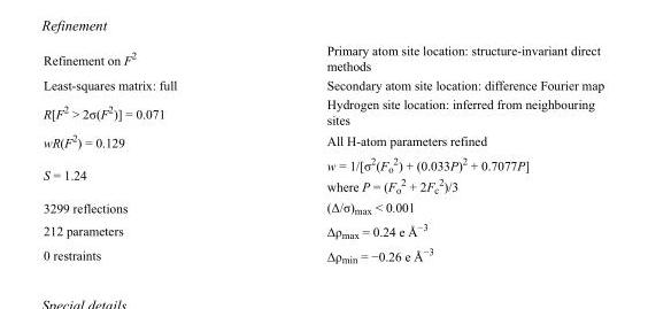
<table><tbody><tr><td>Refinement on F<sup>2</sup></td><td>Primary atom site location: structure-invariant direct methods</td></tr><tr><td>Least-squares matrix: full</td><td>Secondary atom site location: difference Fourier map</td></tr><tr><td>R[F<sup>2</sup> &gt; 2σ(F<sup>2</sup>)] = 0.071</td><td>Hydrogen site location: inferred from neighbouring sites</td></tr><tr><td>wR(F<sup>2</sup>) = 0.129</td><td>All H-atom parameters refined</td></tr><tr><td>S = 1.24</td><td>w = 1/[σ<sup>2</sup>(F<sub>o</sub> <sup>2</sup>) + (0.033P)<sup>2</sup> + 0.7077P] where P = (F<sub>o</sub> <sup>2</sup> + 2F<sub>c</sub> <sup>2</sup>)/3</td></tr><tr><td>3299 reflections</td><td>(Δ/σ)<sub>max</sub> &lt; 0.001</td></tr><tr><td>212 parameters</td><td>Δρ<sub>max</sub> = 0.24 e Å<sup>−3</sup></td></tr><tr><td>0 restraints</td><td>Δρ<sub>min</sub> = −0.26 e Å<sup>−3</sup></td></tr></tbody></table>